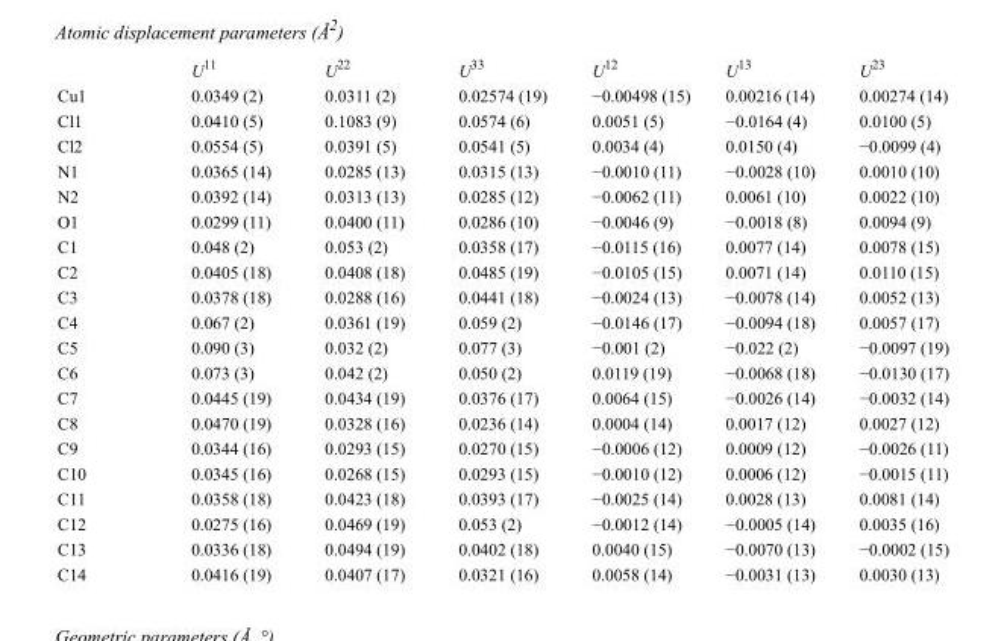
<table><thead><tr><td></td><td>U<sup>11</sup></td><td>U<sup>22</sup></td><td>U<sup>33</sup></td><td>U<sup>12</sup></td><td>U<sup>13</sup></td><td>U<sup>23</sup></td></tr></thead><tbody><tr><td>Cu1</td><td>0.0349 (2)</td><td>0.0311 (2)</td><td>0.02574 (19)</td><td>−0.00498 (15)</td><td>0.00216 (14)</td><td>0.00274 (14)</td></tr><tr><td>Cl1</td><td>0.0410 (5)</td><td>0.1083 (9)</td><td>0.0574 (6)</td><td>0.0051 (5)</td><td>−0.0164 (4)</td><td>0.0100 (5)</td></tr><tr><td>Cl2</td><td>0.0554 (5)</td><td>0.0391 (5)</td><td>0.0541 (5)</td><td>0.0034 (4)</td><td>0.0150 (4)</td><td>−0.0099 (4)</td></tr><tr><td>N1</td><td>0.0365 (14)</td><td>0.0285 (13)</td><td>0.0315 (13)</td><td>−0.0010 (11)</td><td>−0.0028 (10)</td><td>0.0010 (10)</td></tr><tr><td>N2</td><td>0.0392 (14)</td><td>0.0313 (13)</td><td>0.0285 (12)</td><td>−0.0062 (11)</td><td>0.0061 (10)</td><td>0.0022 (10)</td></tr><tr><td>O1</td><td>0.0299 (11)</td><td>0.0400 (11)</td><td>0.0286 (10)</td><td>−0.0046 (9)</td><td>−0.0018 (8)</td><td>0.0094 (9)</td></tr><tr><td>C1</td><td>0.048 (2)</td><td>0.053 (2)</td><td>0.0358 (17)</td><td>−0.0115 (16)</td><td>0.0077 (14)</td><td>0.0078 (15)</td></tr><tr><td>C2</td><td>0.0405 (18)</td><td>0.0408 (18)</td><td>0.0485 (19)</td><td>−0.0105 (15)</td><td>0.0071 (14)</td><td>0.0110 (15)</td></tr><tr><td>C3</td><td>0.0378 (18)</td><td>0.0288 (16)</td><td>0.0441 (18)</td><td>−0.0024 (13)</td><td>−0.0078 (14)</td><td>0.0052 (13)</td></tr><tr><td>C4</td><td>0.067 (2)</td><td>0.0361 (19)</td><td>0.059 (2)</td><td>−0.0146 (17)</td><td>−0.0094 (18)</td><td>0.0057 (17)</td></tr><tr><td>C5</td><td>0.090 (3)</td><td>0.032 (2)</td><td>0.077 (3)</td><td>−0.001 (2)</td><td>−0.022 (2)</td><td>−0.0097 (19)</td></tr><tr><td>C6</td><td>0.073 (3)</td><td>0.042 (2)</td><td>0.050 (2)</td><td>0.0119 (19)</td><td>−0.0068 (18)</td><td>−0.0130 (17)</td></tr><tr><td>C7</td><td>0.0445 (19)</td><td>0.0434 (19)</td><td>0.0376 (17)</td><td>0.0064 (15)</td><td>−0.0026 (14)</td><td>−0.0032 (14)</td></tr><tr><td>C8</td><td>0.0470 (19)</td><td>0.0328 (16)</td><td>0.0236 (14)</td><td>0.0004 (14)</td><td>0.0017 (12)</td><td>0.0027 (12)</td></tr><tr><td>C9</td><td>0.0344 (16)</td><td>0.0293 (15)</td><td>0.0270 (15)</td><td>−0.0006 (12)</td><td>0.0009 (12)</td><td>−0.0026 (11)</td></tr><tr><td>C10</td><td>0.0345 (16)</td><td>0.0268 (15)</td><td>0.0293 (15)</td><td>−0.0010 (12)</td><td>0.0006 (12)</td><td>−0.0015 (11)</td></tr><tr><td>C11</td><td>0.0358 (18)</td><td>0.0423 (18)</td><td>0.0393 (17)</td><td>−0.0025 (14)</td><td>0.0028 (13)</td><td>0.0081 (14)</td></tr><tr><td>C12</td><td>0.0275 (16)</td><td>0.0469 (19)</td><td>0.053 (2)</td><td>−0.0012 (14)</td><td>−0.0005 (14)</td><td>0.0035 (16)</td></tr><tr><td>C13</td><td>0.0336 (18)</td><td>0.0494 (19)</td><td>0.0402 (18)</td><td>0.0040 (15)</td><td>−0.0070 (13)</td><td>−0.0002 (15)</td></tr><tr><td>C14</td><td>0.0416 (19)</td><td>0.0407 (17)</td><td>0.0321 (16)</td><td>0.0058 (14)</td><td>−0.0031 (13)</td><td>0.0030 (13)</td></tr></tbody></table>